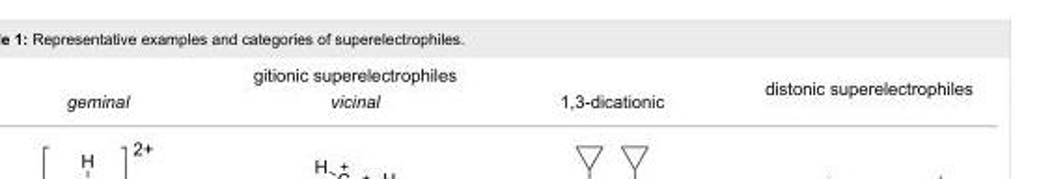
<table><tbody><tr><td colspan="3">gitionic superelectrophiles</td><td rowspan="2">distonic superelectrophiles</td></tr><tr><td>geminal</td><td>vicinal</td><td>1,3-dicationic</td></tr></tbody></table>